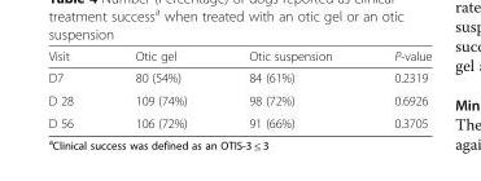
<table><thead><tr><td>Visit</td><td>Otic gel</td><td>Otic suspension</td><td>P-value</td></tr></thead><tbody><tr><td>D7</td><td>80 (54%)</td><td>84 (61%)</td><td>0.2319</td></tr><tr><td>D 28</td><td>109 (74%)</td><td>98 (72%)</td><td>0.6926</td></tr><tr><td>D 56</td><td>106 (72%)</td><td>91 (66%)</td><td>0.3705</td></tr></tbody></table>